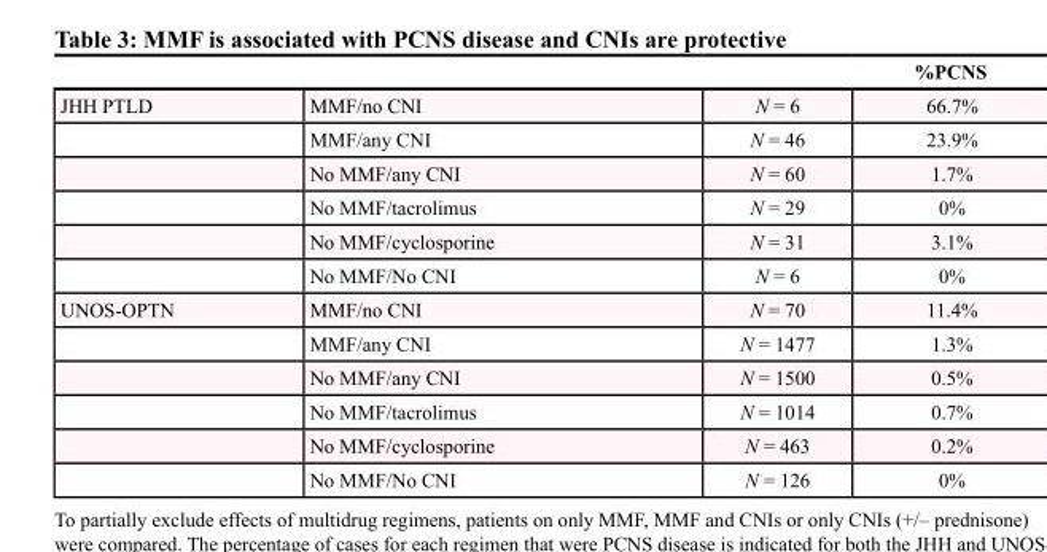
<table><thead><tr><td></td><td></td><td></td><td>%PCNS</td></tr></thead><tbody><tr><td rowspan="6">JHH PTLD</td><td>MMF/no CNI</td><td>N = 6</td><td>66.7%</td></tr><tr><td>MMF/any CNI</td><td>N = 46</td><td>23.9%</td></tr><tr><td>No MMF/any CNI</td><td>N = 60</td><td>1.7%</td></tr><tr><td>No MMF/tacrolimus</td><td>N = 29</td><td>0%</td></tr><tr><td>No MMF/cyclosporine</td><td>N = 31</td><td>3.1%</td></tr><tr><td>No MMF/No CNI</td><td>N = 6</td><td>0%</td></tr><tr><td rowspan="6">UNOS-OPTN</td><td>MMF/no CNI</td><td>N = 70</td><td>11.4%</td></tr><tr><td>MMF/any CNI</td><td>N = 1477</td><td>1.3%</td></tr><tr><td>No MMF/any CNI</td><td>N = 1500</td><td>0.5%</td></tr><tr><td>No MMF/tacrolimus</td><td>N = 1014</td><td>0.7%</td></tr><tr><td>No MMF/cyclosporine</td><td>N = 463</td><td>0.2%</td></tr><tr><td>No MMF/No CNI</td><td>N = 126</td><td>0%</td></tr></tbody></table>